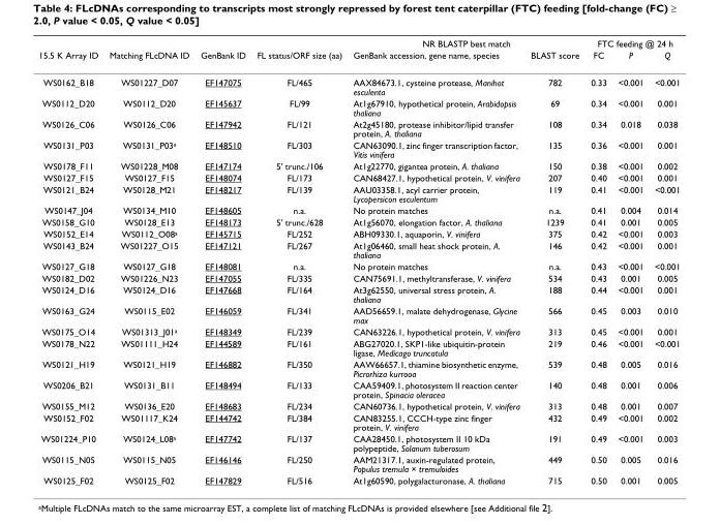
<table><thead><tr><td rowspan="2">15.5 K Array ID</td><td rowspan="2">Matching FLcDNA ID</td><td rowspan="2">GenBank ID</td><td rowspan="2">FL status/ORF size (aa)</td><td colspan="2">NR BLASTP best match</td><td colspan="3">FTC feeding @ 24 h</td></tr><tr><td>GenBank accession, gene name, species</td><td>BLAST score</td><td>FC</td><td>P</td><td>Q</td></tr></thead><tbody><tr><td>WS0162_B18</td><td>WS01227_D07</td><td>EF147075</td><td>FL/465</td><td>AAX84673.1, cysteine protease, Manihot esculenta</td><td>782</td><td>0.33</td><td>&lt;0.001</td><td>&lt;0.001</td></tr><tr><td>WS0112_D20</td><td>WS0112_D20</td><td>EF145637</td><td>FL/99</td><td>At1g67910, hypothetical protein, Arabidopsis thaliana</td><td>69</td><td>0.34</td><td>&lt;0.001</td><td>0.001</td></tr><tr><td>WS0126_C06</td><td>WS0126_C06</td><td>EF147942</td><td>FL/121</td><td>At2g45180, protease inhibitor/lipid transfer protein, A. thaliana</td><td>108</td><td>0.34</td><td>0.018</td><td>0.038</td></tr><tr><td>WS0131_P03</td><td>WS0131_P03<sup>a</sup></td><td>EF148510</td><td>FL/303</td><td>CAN63090.1, zinc finger transcription factor, Vitis vinifera</td><td>135</td><td>0.36</td><td>&lt;0.001</td><td>0.001</td></tr><tr><td>WS0178_F11</td><td>WS01228_M08</td><td>EF147174</td><td>5&#x27; trunc./106</td><td>At1g22770, gigantea protein, A. thaliana</td><td>150</td><td>0.38</td><td>&lt;0.001</td><td>0.002</td></tr><tr><td>WS0127_F15</td><td>WS0127_F15</td><td>EF148074</td><td>FL/173</td><td>CAN68427.1, hypothetical protein, V. vinifera</td><td>207</td><td>0.40</td><td>&lt;0.001</td><td>0.001</td></tr><tr><td>WS0121_B24</td><td>WS0128_M21</td><td>EF148217</td><td>FL/139</td><td>AAU03358.1, acyl carrier protein, Lycopersicon esculentum</td><td>119</td><td>0.41</td><td>&lt;0.001</td><td>&lt;0.001</td></tr><tr><td>WS0147_J04</td><td>WS0134_M10</td><td>EF148605</td><td>n.a.</td><td>No protein matches</td><td>n.a.</td><td>0.41</td><td>0.004</td><td>0.014</td></tr><tr><td>WS0158_G10</td><td>WS0128_E13</td><td>EF148173</td><td>5&#x27; trunc./628</td><td>At1g56070, elongation factor, A. thaliana</td><td>1239</td><td>0.41</td><td>0.001</td><td>0.005</td></tr><tr><td>WS0152_E14</td><td>WS0112_O08<sup>a</sup></td><td>EF145715</td><td>FL/252</td><td>ABH09330.1, aquaporin, V. vinifera</td><td>375</td><td>0.42</td><td>&lt;0.001</td><td>0.003</td></tr><tr><td>WS0143_B24</td><td>WS01227_O15</td><td>EF147121</td><td>FL/267</td><td>At1g06460, small heat shock protein, A. thaliana</td><td>146</td><td>0.42</td><td>&lt;0.001</td><td>0.001</td></tr><tr><td>WS0127_G18</td><td>WS0127_G18</td><td>EF148081</td><td>n.a.</td><td>No protein matches</td><td>n.a.</td><td>0.43</td><td>&lt;0.001</td><td>&lt;0.001</td></tr><tr><td>WS0182_D02</td><td>WS01226_N23</td><td>EF147055</td><td>FL/335</td><td>CAN75691.1, methyltransferase, V. vinifera</td><td>534</td><td>0.43</td><td>0.001</td><td>0.005</td></tr><tr><td>WS0124_D16</td><td>WS0124_D16</td><td>EF147668</td><td>FL/164</td><td>At3g62550, universal stress protein, A. thaliana</td><td>188</td><td>0.44</td><td>&lt;0.001</td><td>0.001</td></tr><tr><td>WS0163_G24</td><td>WS0115_E02</td><td>EF146059</td><td>FL/341</td><td>AAD56659.1, malate dehydrogenase, Glycine max</td><td>566</td><td>0.45</td><td>0.003</td><td>0.010</td></tr><tr><td>WS0175_O14</td><td>WS01313_J01<sup>a</sup></td><td>EF148349</td><td>FL/239</td><td>CAN63226.1, hypothetical protein, V. vinifera</td><td>313</td><td>0.45</td><td>&lt;0.001</td><td>0.001</td></tr><tr><td>WS0178_N22</td><td>WS01111_H24</td><td>EF144589</td><td>FL/161</td><td>ABG27020.1, SKP1-like ubiquitin-protein ligase, Medicago truncatula</td><td>219</td><td>0.46</td><td>&lt;0.001</td><td>&lt;0.001</td></tr><tr><td>WS0121_H19</td><td>WS0121_H19</td><td>EF146882</td><td>FL/350</td><td>AAW66657.1, thiamine biosynthetic enzyme, Picrorhiza kurrooa</td><td>539</td><td>0.48</td><td>0.005</td><td>0.016</td></tr><tr><td>WS0206_B21</td><td>WS0131_B11</td><td>EF148494</td><td>FL/133</td><td>CAA59409.1, photosystem II reaction center protein, Spinacia oleracea</td><td>140</td><td>0.48</td><td>0.001</td><td>0.006</td></tr><tr><td>WS0155_M12</td><td>WS0136_E20</td><td>EF148683</td><td>FL/234</td><td>CAN60736.1, hypothetical protein, V. vinifera</td><td>313</td><td>0.48</td><td>0.001</td><td>0.007</td></tr><tr><td>WS0152_F02</td><td>WS01117_K24</td><td>EF144742</td><td>FL/384</td><td>CAN83255.1, CCCH-type zinc finger protein, V. vinifera</td><td>432</td><td>0.49</td><td>&lt;0.001</td><td>0.002</td></tr><tr><td>WS01224_P10</td><td>WS0124_L08<sup>a</sup></td><td>EF147742</td><td>FL/137</td><td>CAA28450.1, photosystem II 10 kDa polypeptide, Solanum tuberosum</td><td>191</td><td>0.49</td><td>&lt;0.001</td><td>0.003</td></tr><tr><td>WS0115_N05</td><td>WS0115_N05</td><td>EF146146</td><td>FL/250</td><td>AAM21317.1, auxin-regulated protein, Populus tremula × tremuloides</td><td>449</td><td>0.50</td><td>0.005</td><td>0.016</td></tr><tr><td>WS0125_F02</td><td>WS0125_F02</td><td>EF147829</td><td>FL/516</td><td>At1g60590, polygalacturonase, A. thaliana</td><td>715</td><td>0.50</td><td>0.001</td><td>0.005</td></tr></tbody></table>